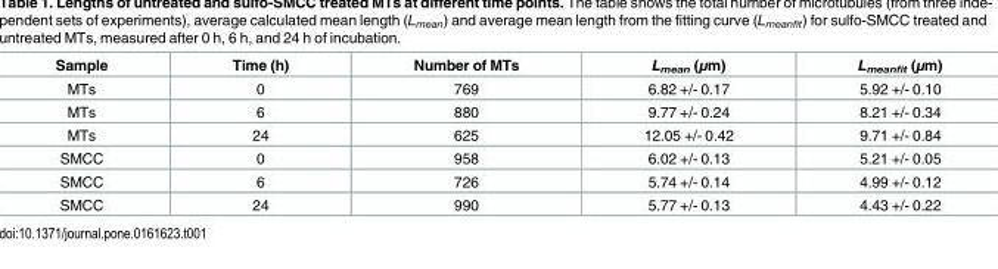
<table><thead><tr><td>Sample</td><td>Time (h)</td><td>Number of MTs</td><td>L<sub>mean</sub> (μm)</td><td>L<sub>meanfit</sub> (μm)</td></tr></thead><tbody><tr><td>MTs</td><td>0</td><td>769</td><td>6.82 +/- 0.17</td><td>5.92 +/- 0.10</td></tr><tr><td>MTs</td><td>6</td><td>880</td><td>9.77 +/- 0.24</td><td>8.21 +/- 0.34</td></tr><tr><td>MTs</td><td>24</td><td>625</td><td>12.05 +/- 0.42</td><td>9.71 +/- 0.84</td></tr><tr><td>SMCC</td><td>0</td><td>958</td><td>6.02 +/- 0.13</td><td>5.21 +/- 0.05</td></tr><tr><td>SMCC</td><td>6</td><td>726</td><td>5.74 +/- 0.14</td><td>4.99 +/- 0.12</td></tr><tr><td>SMCC</td><td>24</td><td>990</td><td>5.77 +/- 0.13</td><td>4.43 +/- 0.22</td></tr></tbody></table>